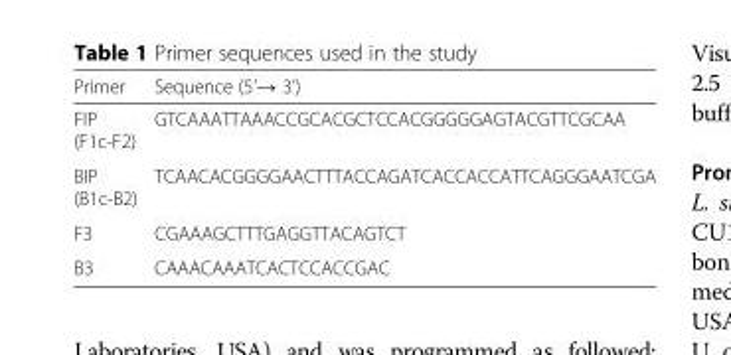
<table><thead><tr><td>Primer</td><td>Sequence (5’→ 3’)</td></tr></thead><tbody><tr><td>FIP (F1c-F2)</td><td>GTCAAATTAAACCGCACGCTCCACGGGGGAGTACGTTCGCAA</td></tr><tr><td>BIP (B1c-B2)</td><td>TCAACACGGGGAACTTTACCAGATCACCACCATTCAGGGAATCGA</td></tr><tr><td>F3</td><td>CGAAAGCTTTGAGGTTACAGTCT</td></tr><tr><td>B3</td><td>CAAACAAATCACTCCACCGAC</td></tr></tbody></table>